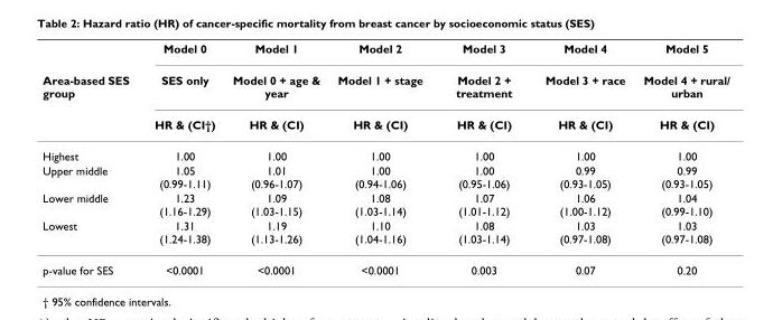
<table><thead><tr><td rowspan="3">Area-based SES group</td><td rowspan="3">Model 0 SES only HR &amp; (CI†)</td><td rowspan="3">Model 1 Model 0 + age &amp; year HR &amp; (CI)</td><td rowspan="3">Model 2 Model 1 + stage HR &amp; (CI)</td><td rowspan="3">Model 3 Model 2 + treatment HR &amp; (CI)</td><td rowspan="3">Model 4 Model 3 + race HR &amp; (CI)</td><td rowspan="3">Model 5 Model 4 + rural/ urban HR &amp; (CI)</td></tr><tr></tr><tr></tr></thead><tbody><tr><td>Highest</td><td>1.00</td><td>1.00</td><td>1.00</td><td>1.00</td><td>1.00</td><td>1.00</td></tr><tr><td>Upper middle</td><td>1.05 (0.99-1.11)</td><td>1.01 (0.96-1.07)</td><td>1.00 (0.94-1.06)</td><td>1.00 (0.95-1.06)</td><td>0.99 (0.93-1.05)</td><td>0.99 (0.93-1.05)</td></tr><tr><td>Lower middle</td><td>1.23 (1.16-1.29)</td><td>1.09 (1.03-1.15)</td><td>1.08 (1.03-1.14)</td><td>1.07 (1.01-1.12)</td><td>1.06 (1.00-1.12)</td><td>1.04 (0.99-1.10)</td></tr><tr><td>Lowest</td><td>1.31 (1.24-1.38)</td><td>1.19 (1.13-1.26)</td><td>1.10 (1.04-1.16)</td><td>1.08 (1.03-1.14)</td><td>1.03 (0.97-1.08)</td><td>1.03 (0.97-1.08)</td></tr><tr><td>p-value for SES</td><td>&lt;0.0001</td><td>&lt;0.0001</td><td>&lt;0.0001</td><td>0.003</td><td>0.07</td><td>0.20</td></tr></tbody></table>